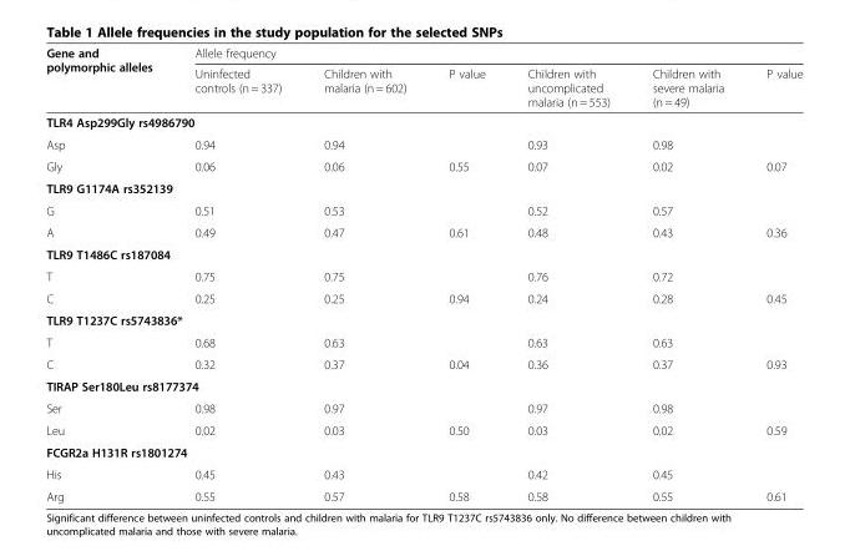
<table><thead><tr><td rowspan="2">Gene and polymorphic alleles</td><td colspan="6">Allele frequency</td></tr><tr><td>Uninfected controls (n = 337)</td><td>Children with malaria (n = 602)</td><td>P value</td><td>Children with uncomplicated malaria (n = 553)</td><td>Children with severe malaria (n = 49)</td><td>P value</td></tr></thead><tbody><tr><td colspan="7">TLR4 Asp299Gly rs4986790</td></tr><tr><td>Asp</td><td>0.94</td><td>0.94</td><td></td><td>0.93</td><td>0.98</td><td></td></tr><tr><td>Gly</td><td>0.06</td><td>0.06</td><td>0.55</td><td>0.07</td><td>0.02</td><td>0.07</td></tr><tr><td colspan="7">TLR9 G1174A rs352139</td></tr><tr><td>G</td><td>0.51</td><td>0.53</td><td></td><td>0.52</td><td>0.57</td><td></td></tr><tr><td>A</td><td>0.49</td><td>0.47</td><td>0.61</td><td>0.48</td><td>0.43</td><td>0.36</td></tr><tr><td colspan="7">TLR9 T1486C rs187084</td></tr><tr><td>T</td><td>0.75</td><td>0.75</td><td></td><td>0.76</td><td>0.72</td><td></td></tr><tr><td>C</td><td>0.25</td><td>0.25</td><td>0.94</td><td>0.24</td><td>0.28</td><td>0.45</td></tr><tr><td colspan="7">TLR9 T1237C rs5743836*</td></tr><tr><td>T</td><td>0.68</td><td>0.63</td><td></td><td>0.63</td><td>0.63</td><td></td></tr><tr><td>C</td><td>0.32</td><td>0.37</td><td>0.04</td><td>0.36</td><td>0.37</td><td>0.93</td></tr><tr><td colspan="7">TIRAP Ser180Leu rs8177374</td></tr><tr><td>Ser</td><td>0.98</td><td>0.97</td><td></td><td>0.97</td><td>0.98</td><td></td></tr><tr><td>Leu</td><td>0.02</td><td>0.03</td><td>0.50</td><td>0.03</td><td>0.02</td><td>0.59</td></tr><tr><td colspan="7">FCGR2a H131R rs1801274</td></tr><tr><td>His</td><td>0.45</td><td>0.43</td><td></td><td>0.42</td><td>0.45</td><td></td></tr><tr><td>Arg</td><td>0.55</td><td>0.57</td><td>0.58</td><td>0.58</td><td>0.55</td><td>0.61</td></tr></tbody></table>